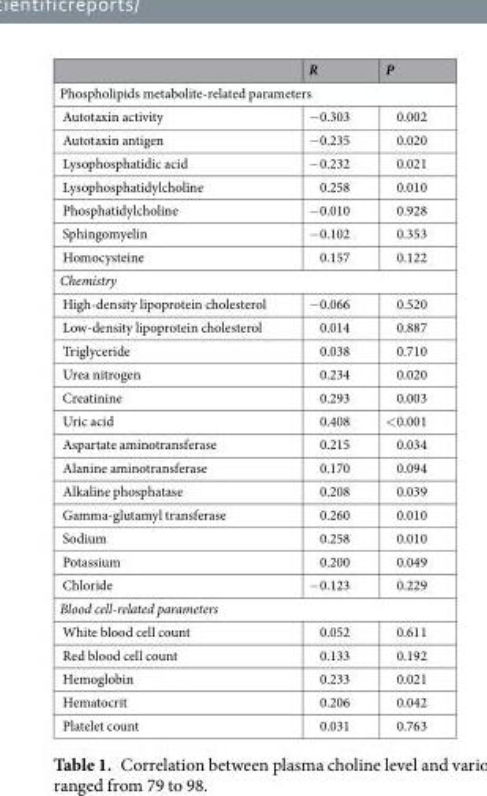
<table><thead><tr><td></td><td>R</td><td>P</td></tr></thead><tbody><tr><td colspan="3">Phospholipids metabolite-related parameters</td></tr><tr><td>Autotaxin activity</td><td>−0.303</td><td>0.002</td></tr><tr><td>Autotaxin antigen</td><td>−0.235</td><td>0.020</td></tr><tr><td>Lysophosphatidic acid</td><td>−0.232</td><td>0.021</td></tr><tr><td>Lysophosphatidylcholine</td><td>0.258</td><td>0.010</td></tr><tr><td>Phosphatidylcholine</td><td>−0.010</td><td>0.928</td></tr><tr><td>Sphingomyelin</td><td>−0.102</td><td>0.353</td></tr><tr><td>Homocysteine</td><td>0.157</td><td>0.122</td></tr><tr><td colspan="3">Chemistry</td></tr><tr><td>High-density lipoprotein cholesterol</td><td>−0.066</td><td>0.520</td></tr><tr><td>Low-density lipoprotein cholesterol</td><td>0.014</td><td>0.887</td></tr><tr><td>Triglyceride</td><td>0.038</td><td>0.710</td></tr><tr><td>Urea nitrogen</td><td>0.234</td><td>0.020</td></tr><tr><td>Creatinine</td><td>0.293</td><td>0.003</td></tr><tr><td>Uric acid</td><td>0.408</td><td>&lt;0.001</td></tr><tr><td>Aspartate aminotransferase</td><td>0.215</td><td>0.034</td></tr><tr><td>Alanine aminotransferase</td><td>0.170</td><td>0.094</td></tr><tr><td>Alkaline phosphatase</td><td>0.208</td><td>0.039</td></tr><tr><td>Gamma-glutamyl transferase</td><td>0.260</td><td>0.010</td></tr><tr><td>Sodium</td><td>0.258</td><td>0.010</td></tr><tr><td>Potassium</td><td>0.200</td><td>0.049</td></tr><tr><td>Chloride</td><td>−0.123</td><td>0.229</td></tr><tr><td colspan="3">Blood cell-related parameters</td></tr><tr><td>White blood cell count</td><td>0.052</td><td>0.611</td></tr><tr><td>Red blood cell count</td><td>0.133</td><td>0.192</td></tr><tr><td>Hemoglobin</td><td>0.233</td><td>0.021</td></tr><tr><td>Hematocrit</td><td>0.206</td><td>0.042</td></tr><tr><td>Platelet count</td><td>0.031</td><td>0.763</td></tr></tbody></table>